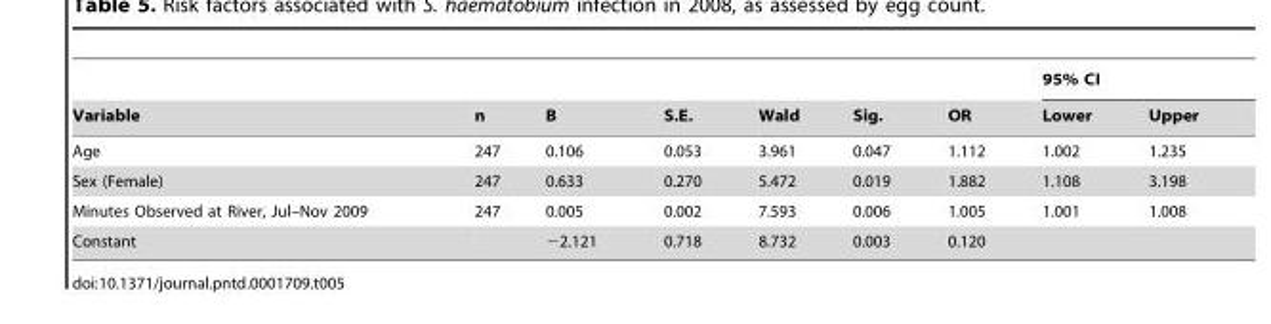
<table><thead><tr><td rowspan="2">Variable</td><td rowspan="2">n</td><td rowspan="2">B</td><td rowspan="2">S.E.</td><td rowspan="2">Wald</td><td rowspan="2">Sig.</td><td rowspan="2">OR</td><td colspan="2">95% CI</td></tr><tr><td>Lower</td><td>Upper</td></tr></thead><tbody><tr><td>Age</td><td>247</td><td>0.106</td><td>0.053</td><td>3.961</td><td>0.047</td><td>1.112</td><td>1.002</td><td>1.235</td></tr><tr><td>Sex (Female)</td><td>247</td><td>0.633</td><td>0.270</td><td>5.472</td><td>0.019</td><td>1.882</td><td>1.108</td><td>3.198</td></tr><tr><td>Minutes Observed at River, Jul–Nov 2009</td><td>247</td><td>0.005</td><td>0.002</td><td>7.593</td><td>0.006</td><td>1.005</td><td>1.001</td><td>1.008</td></tr><tr><td>Constant</td><td></td><td>−2.121</td><td>0.718</td><td>8.732</td><td>0.003</td><td>0.120</td><td></td><td></td></tr></tbody></table>